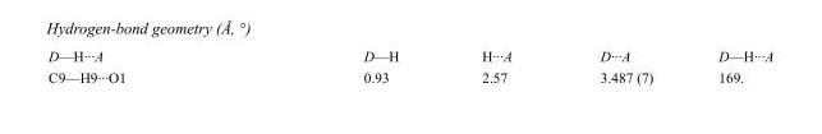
<table><tbody><tr><td>D—H···A</td><td>D—H</td><td>H···A</td><td>D···A</td><td>D—H···A</td></tr><tr><td>C9—H9···O1</td><td>0.93</td><td>2.57</td><td>3.487 (7)</td><td>169.</td></tr></tbody></table>